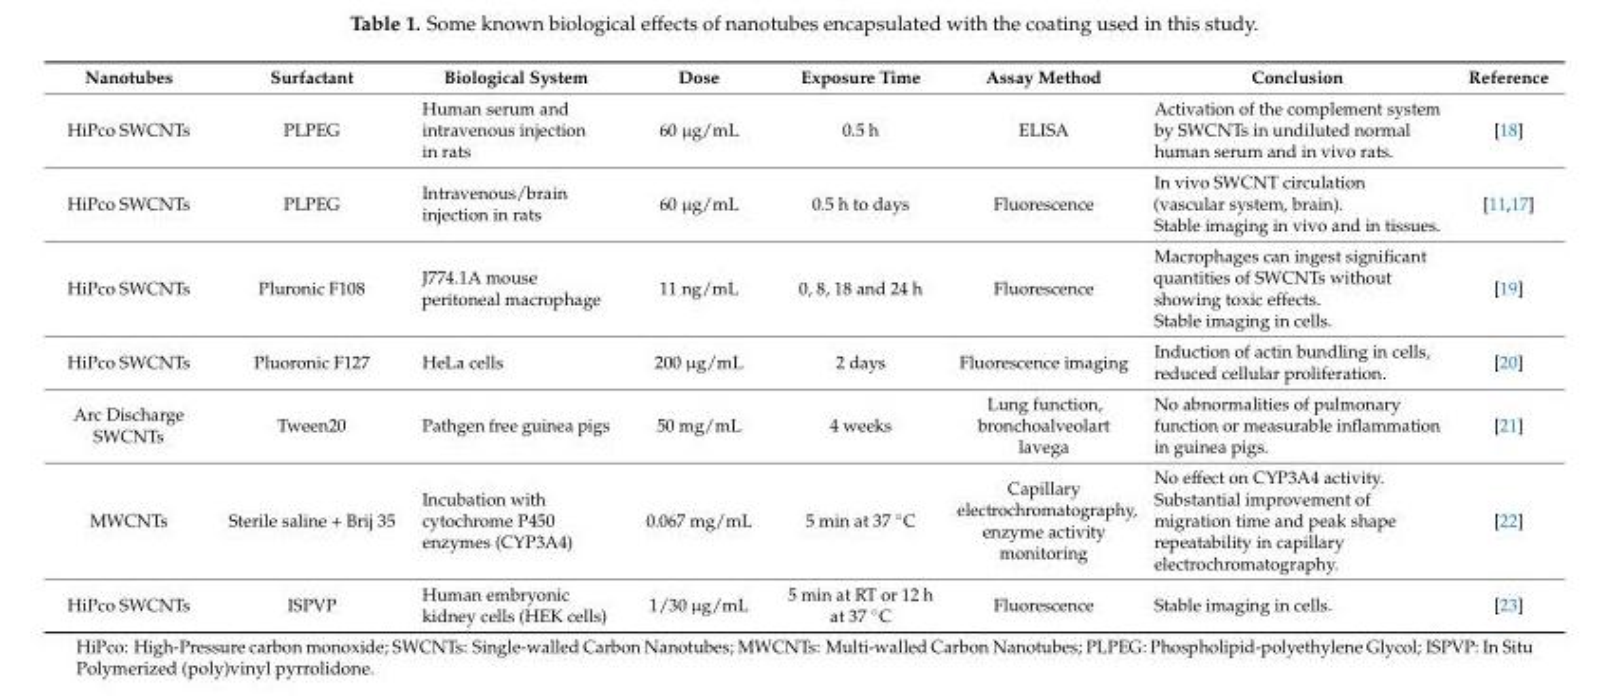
<table><thead><tr><td>Nanotubes</td><td>Surfactant</td><td>Biological System</td><td>Dose</td><td>Exposure Time</td><td>Assay Method</td><td>Conclusion</td><td>Reference</td></tr></thead><tbody><tr><td>HiPco SWCNTs</td><td>PLPEG</td><td>Human serum and intravenous injection in rats</td><td>60 µg/mL</td><td>0.5 h</td><td>ELISA</td><td>Activation of the complement system by SWCNTs in undiluted normal human serum and in vivo rats.</td><td>[18]</td></tr><tr><td>HiPco SWCNTs</td><td>PLPEG</td><td>Intravenous/brain injection in rats</td><td>60 µg/mL</td><td>0.5 h to days</td><td>Fluorescence</td><td>In vivo SWCNT circulation (vascular system, brain). Stable imaging in vivo and in tissues.</td><td>[11,17]</td></tr><tr><td>HiPco SWCNTs</td><td>Pluronic F108</td><td>J774.1A mouse peritoneal macrophage</td><td>11 ng/mL</td><td>0, 8, 18 and 24 h</td><td>Fluorescence</td><td>Macrophages can ingest significant quantities of SWCNTs without showing toxic effects. Stable imaging in cells.</td><td>[19]</td></tr><tr><td>HiPco SWCNTs</td><td>Pluoronic F127</td><td>HeLa cells</td><td>200 µg/mL</td><td>2 days</td><td>Fluorescence imaging</td><td>Induction of actin bundling in cells, reduced cellular proliferation.</td><td>[20]</td></tr><tr><td>Arc Discharge SWCNTs</td><td>Tween20</td><td>Pathgen free guinea pigs</td><td>50 mg/mL</td><td>4 weeks</td><td>Lung function, bronchoalveolart lavega</td><td>No abnormalities of pulmonary function or measurable inflammation in guinea pigs.</td><td>[21]</td></tr><tr><td>MWCNTs</td><td>Sterile saline + Brij 35</td><td>Incubation with cytochrome P450 enzymes (CYP3A4)</td><td>0.067 mg/mL</td><td>5 min at 37 ◦C</td><td>Capillary electrochromatography, enzyme activity monitoring</td><td>No effect on CYP3A4 activity. Substantial improvement of migration time and peak shape repeatability in capillary electrochromatography.</td><td>[22]</td></tr><tr><td>HiPco SWCNTs</td><td>ISPVP</td><td>Human embryonic kidney cells (HEK cells)</td><td>1/30 µg/mL</td><td>5 min at RT or 12 h at 37 ◦C</td><td>Fluorescence</td><td>Stable imaging in cells.</td><td>[23]</td></tr></tbody></table>